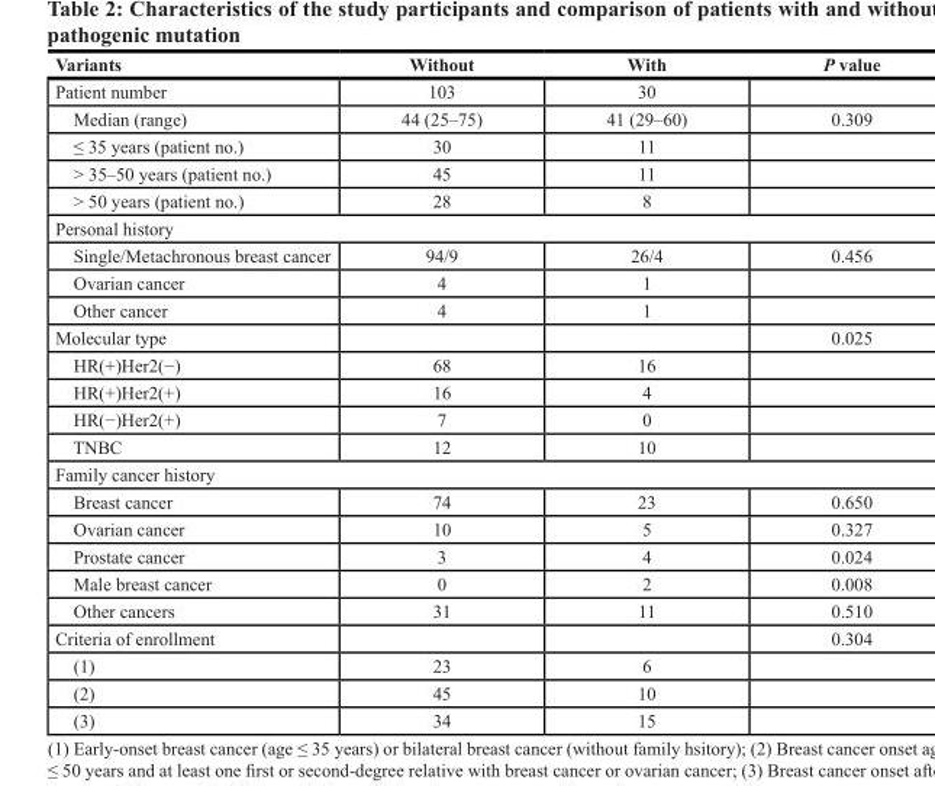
<table><thead><tr><td>Variants</td><td>Without</td><td>With</td><td>P value</td></tr></thead><tbody><tr><td>Patient number</td><td>103</td><td>30</td><td></td></tr><tr><td>Median (range)</td><td>44 (25–75)</td><td>41 (29–60)</td><td>0.309</td></tr><tr><td>≤ 35 years (patient no.)</td><td>30</td><td>11</td><td></td></tr><tr><td>&gt; 35–50 years (patient no.)</td><td>45</td><td>11</td><td></td></tr><tr><td>&gt; 50 years (patient no.)</td><td>28</td><td>8</td><td></td></tr><tr><td colspan="4">Personal history</td></tr><tr><td>Single/Metachronous breast cancer</td><td>94/9</td><td>26/4</td><td>0.456</td></tr><tr><td>Ovarian cancer</td><td>4</td><td>1</td><td></td></tr><tr><td>Other cancer</td><td>4</td><td>1</td><td></td></tr><tr><td>Molecular type</td><td></td><td></td><td>0.025</td></tr><tr><td>HR(+)Her2(−)</td><td>68</td><td>16</td><td></td></tr><tr><td>HR(+)Her2(+)</td><td>16</td><td>4</td><td></td></tr><tr><td>HR(−)Her2(+)</td><td>7</td><td>0</td><td></td></tr><tr><td>TNBC</td><td>12</td><td>10</td><td></td></tr><tr><td colspan="4">Family cancer history</td></tr><tr><td>Breast cancer</td><td>74</td><td>23</td><td>0.650</td></tr><tr><td>Ovarian cancer</td><td>10</td><td>5</td><td>0.327</td></tr><tr><td>Prostate cancer</td><td>3</td><td>4</td><td>0.024</td></tr><tr><td>Male breast cancer</td><td>0</td><td>2</td><td>0.008</td></tr><tr><td>Other cancers</td><td>31</td><td>11</td><td>0.510</td></tr><tr><td>Criteria of enrollment</td><td></td><td></td><td>0.304</td></tr><tr><td>(1)</td><td>23</td><td>6</td><td></td></tr><tr><td>(2)</td><td>45</td><td>10</td><td></td></tr><tr><td>(3)</td><td>34</td><td>15</td><td></td></tr></tbody></table>